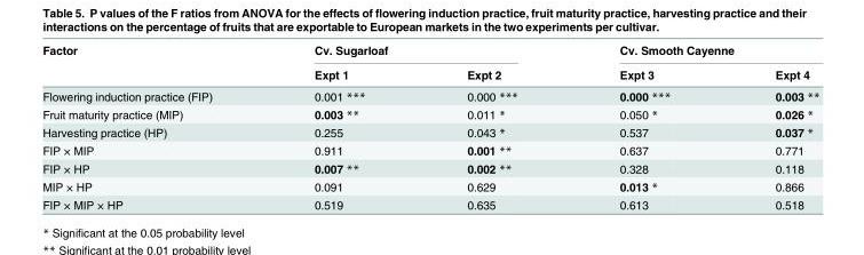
<table><thead><tr><td rowspan="2">Factor</td><td colspan="2">Cv. Sugarloaf</td><td colspan="2">Cv. Smooth Cayenne</td></tr><tr><td>Expt 1</td><td>Expt 2</td><td>Expt 3</td><td>Expt 4</td></tr></thead><tbody><tr><td>Flowering induction practice (FIP)</td><td>0.001 ***</td><td>0.000 ***</td><td>0.000 ***</td><td>0.003 **</td></tr><tr><td>Fruit maturity practice (MIP)</td><td>0.003 **</td><td>0.011 *</td><td>0.050 *</td><td>0.026 *</td></tr><tr><td>Harvesting practice (HP)</td><td>0.255</td><td>0.043 *</td><td>0.537</td><td>0.037 *</td></tr><tr><td>FIP × MIP</td><td>0.911</td><td>0.001 **</td><td>0.637</td><td>0.771</td></tr><tr><td>FIP × HP</td><td>0.007 **</td><td>0.002 **</td><td>0.328</td><td>0.118</td></tr><tr><td>MIP × HP</td><td>0.091</td><td>0.629</td><td>0.013 *</td><td>0.866</td></tr><tr><td>FIP × MIP × HP</td><td>0.519</td><td>0.635</td><td>0.613</td><td>0.518</td></tr></tbody></table>